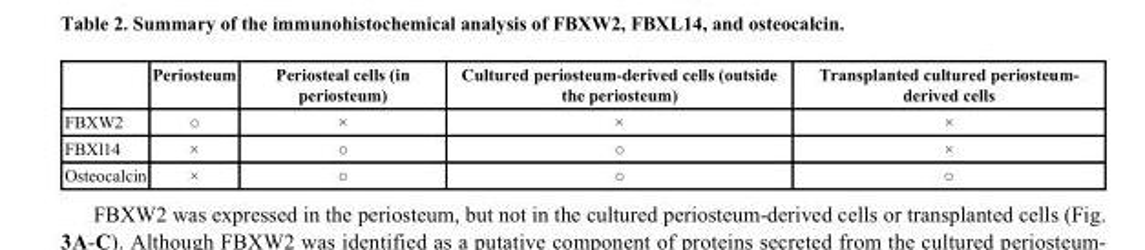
<table><thead><tr><td></td><td>Periosteum</td><td>Periosteal cells (in periosteum)</td><td>Cultured periosteum-derived cells (outside the periosteum)</td><td>Transplanted cultured periosteum- derived cells</td></tr></thead><tbody><tr><td>FBXW2</td><td>○</td><td>×</td><td>×</td><td>×</td></tr><tr><td>FBXl14</td><td>×</td><td>○</td><td>○</td><td>×</td></tr><tr><td>Osteocalcin</td><td>×</td><td>○</td><td>○</td><td>○</td></tr></tbody></table>